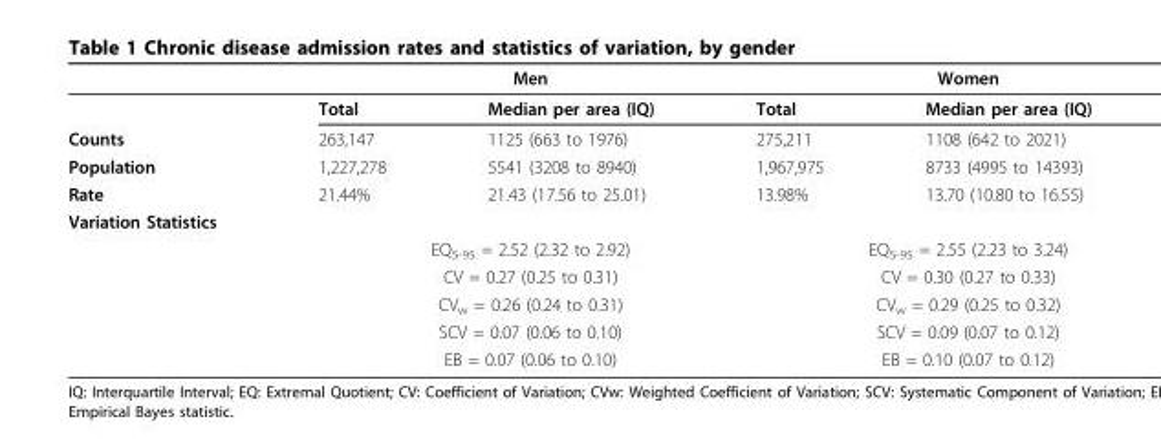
<table><thead><tr><td rowspan="2"></td><td colspan="2">Men</td><td colspan="2">Women</td></tr><tr><td>Total</td><td>Median per area (IQ)</td><td>Total</td><td>Median per area (IQ)</td></tr></thead><tbody><tr><td>Counts</td><td>263,147</td><td>1125 (663 to 1976)</td><td>275,211</td><td>1108 (642 to 2021)</td></tr><tr><td>Population</td><td>1,227,278</td><td>5541 (3208 to 8940)</td><td>1,967,975</td><td>8733 (4995 to 14393)</td></tr><tr><td>Rate</td><td>21.44%</td><td>21.43 (17.56 to 25.01)</td><td>13.98%</td><td>13.70 (10.80 to 16.55)</td></tr><tr><td colspan="5">Variation Statistics</td></tr><tr><td></td><td colspan="2">EQ<sub>5-95</sub> = 2.52 (2.32 to 2.92)</td><td colspan="2">EQ<sub>5-95</sub> = 2.55 (2.23 to 3.24)</td></tr><tr><td></td><td colspan="2">CV = 0.27 (0.25 to 0.31)</td><td colspan="2">CV = 0.30 (0.27 to 0.33)</td></tr><tr><td></td><td colspan="2">CV<sub>w</sub> = 0.26 (0.24 to 0.31)</td><td colspan="2">CV<sub>w</sub> = 0.29 (0.25 to 0.32)</td></tr><tr><td></td><td colspan="2">SCV = 0.07 (0.06 to 0.10)</td><td colspan="2">SCV = 0.09 (0.07 to 0.12)</td></tr><tr><td></td><td colspan="2">EB = 0.07 (0.06 to 0.10)</td><td colspan="2">EB = 0.10 (0.07 to 0.12)</td></tr></tbody></table>